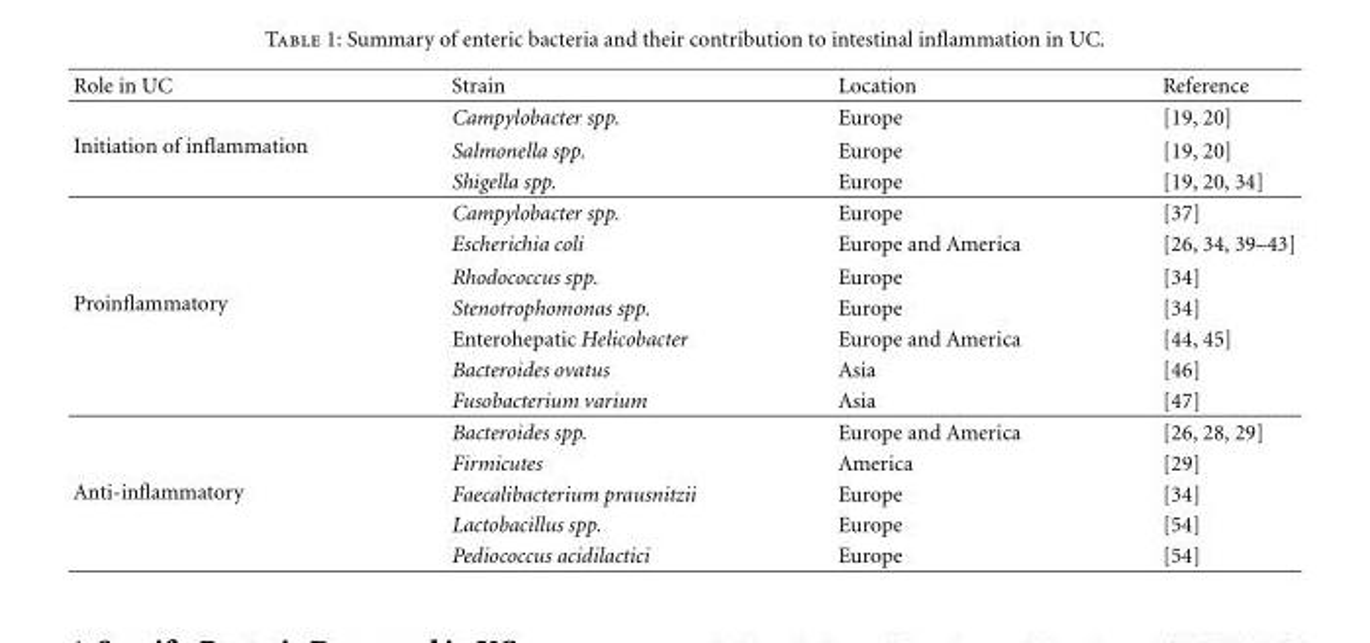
<table><thead><tr><td>Role in UC</td><td>Strain</td><td>Location</td><td>Reference</td></tr></thead><tbody><tr><td rowspan="3">Initiation of inflammation</td><td>Campylobacter spp.</td><td>Europe</td><td>[19, 20]</td></tr><tr><td>Salmonella spp.</td><td>Europe</td><td>[19, 20]</td></tr><tr><td>Shigella spp.</td><td>Europe</td><td>[19, 20, 34]</td></tr><tr><td rowspan="7">Proinflammatory</td><td>Campylobacter spp.</td><td>Europe</td><td>[37]</td></tr><tr><td>Escherichia coli</td><td>Europe and America</td><td>[26, 34, 39–43]</td></tr><tr><td>Rhodococcus spp.</td><td>Europe</td><td>[34]</td></tr><tr><td>Stenotrophomonas spp.</td><td>Europe</td><td>[34]</td></tr><tr><td>Enterohepatic Helicobacter</td><td>Europe and America</td><td>[44, 45]</td></tr><tr><td>Bacteroides ovatus</td><td>Asia</td><td>[46]</td></tr><tr><td>Fusobacterium varium</td><td>Asia</td><td>[47]</td></tr><tr><td rowspan="5">Anti-inflammatory</td><td>Bacteroides spp.</td><td>Europe and America</td><td>[26, 28, 29]</td></tr><tr><td>Firmicutes</td><td>America</td><td>[29]</td></tr><tr><td>Faecalibacterium prausnitzii</td><td>Europe</td><td>[34]</td></tr><tr><td>Lactobacillus spp.</td><td>Europe</td><td>[54]</td></tr><tr><td>Pediococcus acidilactici</td><td>Europe</td><td>[54]</td></tr></tbody></table>